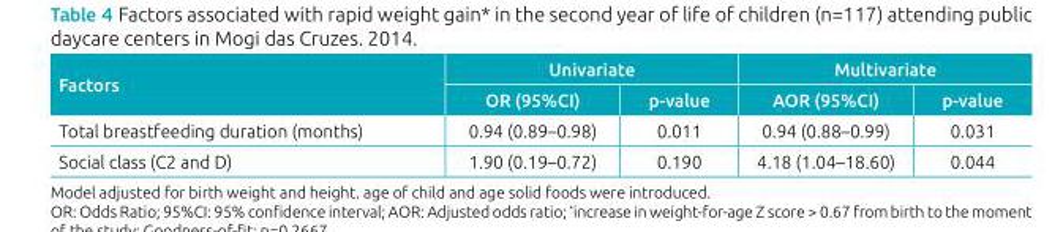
<table><thead><tr><td rowspan="2">Factors</td><td colspan="2">Univariate</td><td colspan="2">Multivariate</td></tr><tr><td>OR (95%CI)</td><td>p‑value</td><td>AOR (95%CI)</td><td>p‑value</td></tr></thead><tbody><tr><td>Total breastfeeding duration (months)</td><td>0.94 (0.89–0.98)</td><td>0.011</td><td>0.94 (0.88–0.99)</td><td>0.031</td></tr><tr><td>Social class (C2 and D)</td><td>1.90 (0.19–0.72)</td><td>0.190</td><td>4.18 (1.04–18.60)</td><td>0.044</td></tr></tbody></table>